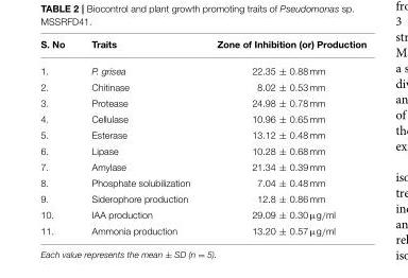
<table><thead><tr><td>S. No</td><td>Traits</td><td>Zone of Inhibition (or) Production</td></tr></thead><tbody><tr><td>1.</td><td>P. grisea</td><td>22.35 ± 0.88 mm</td></tr><tr><td>2.</td><td>Chitinase</td><td>8.02 ± 0.53 mm</td></tr><tr><td>3.</td><td>Protease</td><td>24.98 ± 0.78 mm</td></tr><tr><td>4.</td><td>Cellulase</td><td>10.96 ± 0.65 mm</td></tr><tr><td>5.</td><td>Esterase</td><td>13.12 ± 0.48 mm</td></tr><tr><td>6.</td><td>Lipase</td><td>10.28 ± 0.68 mm</td></tr><tr><td>7.</td><td>Amylase</td><td>21.34 ± 0.39 mm</td></tr><tr><td>8.</td><td>Phosphate solubilization</td><td>7.04 ± 0.48 mm</td></tr><tr><td>9.</td><td>Siderophore production</td><td>12.8 ± 0.86 mm</td></tr><tr><td>10.</td><td>IAA production</td><td>29.09 ± 0.30 µg/ml</td></tr><tr><td>11.</td><td>Ammonia production</td><td>13.20 ± 0.57 µg/ml</td></tr></tbody></table>